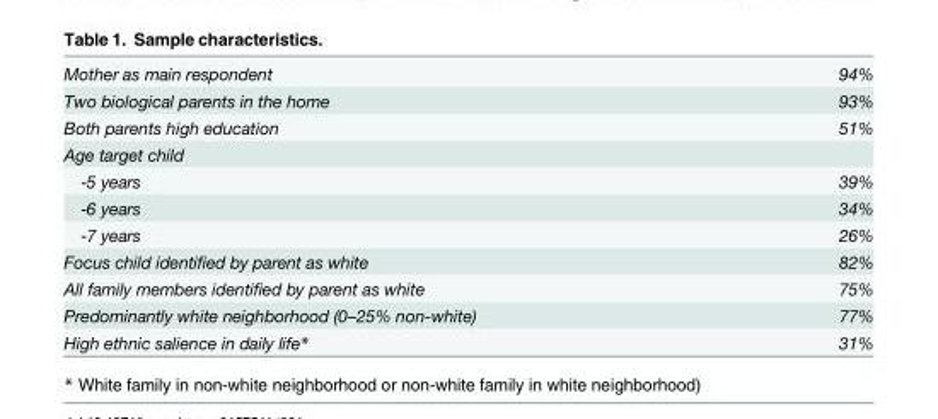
<table><tbody><tr><td>Mother as main respondent</td><td>94%</td></tr><tr><td>Two biological parents in the home</td><td>93%</td></tr><tr><td>Both parents high education</td><td>51%</td></tr><tr><td colspan="2">Age target child</td></tr><tr><td>-5 years</td><td>39%</td></tr><tr><td>-6 years</td><td>34%</td></tr><tr><td>-7 years</td><td>26%</td></tr><tr><td>Focus child identified by parent as white</td><td>82%</td></tr><tr><td>All family members identified by parent as white</td><td>75%</td></tr><tr><td>Predominantly white neighborhood (0–25% non-white)</td><td>77%</td></tr><tr><td>High ethnic salience in daily life*</td><td>31%</td></tr></tbody></table>